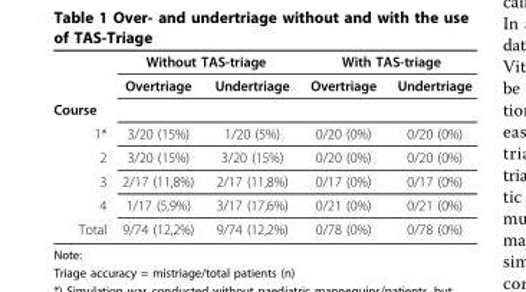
<table><thead><tr><td rowspan="2"></td><td colspan="2">Without TAS-triage</td><td colspan="2">With TAS-triage</td></tr><tr><td>Overtriage</td><td>Undertriage</td><td>Overtriage</td><td>Undertriage</td></tr></thead><tbody><tr><td colspan="5">Course</td></tr><tr><td>1*</td><td>3/20 (15%)</td><td>1/20 (5%)</td><td>0/20 (0%)</td><td>0/20 (0%)</td></tr><tr><td>2</td><td>3/20 (15%)</td><td>3/20 (15%)</td><td>0/20 (0%)</td><td>0/20 (0%)</td></tr><tr><td>3</td><td>2/17 (11,8%)</td><td>2/17 (11,8%)</td><td>0/17 (0%)</td><td>0/17 (0%)</td></tr><tr><td>4</td><td>1/17 (5,9%)</td><td>3/17 (17,6%)</td><td>0/21 (0%)</td><td>0/21 (0%)</td></tr><tr><td>Total</td><td>9/74 (12,2%)</td><td>9/74 (12,2%)</td><td>0/78 (0%)</td><td>0/78 (0%)</td></tr></tbody></table>